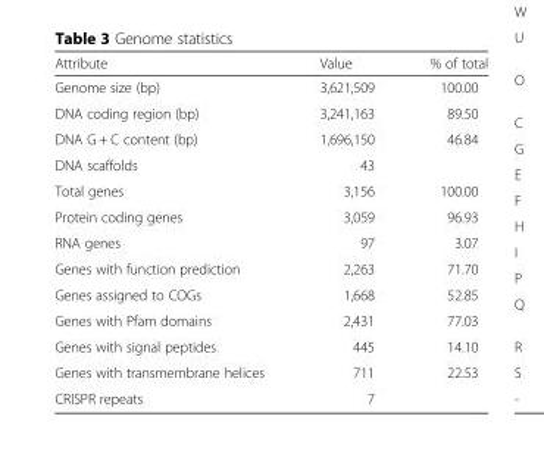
<table><thead><tr><td>Attribute</td><td>Value</td><td>% of total</td></tr></thead><tbody><tr><td>Genome size (bp)</td><td>3,621,509</td><td>100.00</td></tr><tr><td>DNA coding region (bp)</td><td>3,241,163</td><td>89.50</td></tr><tr><td>DNA G + C content (bp)</td><td>1,696,150</td><td>46.84</td></tr><tr><td>DNA scaffolds</td><td>43</td><td></td></tr><tr><td>Total genes</td><td>3,156</td><td>100.00</td></tr><tr><td>Protein coding genes</td><td>3,059</td><td>96.93</td></tr><tr><td>RNA genes</td><td>97</td><td>3.07</td></tr><tr><td>Genes with function prediction</td><td>2,263</td><td>71.70</td></tr><tr><td>Genes assigned to COGs</td><td>1,668</td><td>52.85</td></tr><tr><td>Genes with Pfam domains</td><td>2,431</td><td>77.03</td></tr><tr><td>Genes with signal peptides</td><td>445</td><td>14.10</td></tr><tr><td>Genes with transmembrane helices</td><td>711</td><td>22.53</td></tr><tr><td>CRISPR repeats</td><td>7</td><td></td></tr></tbody></table>